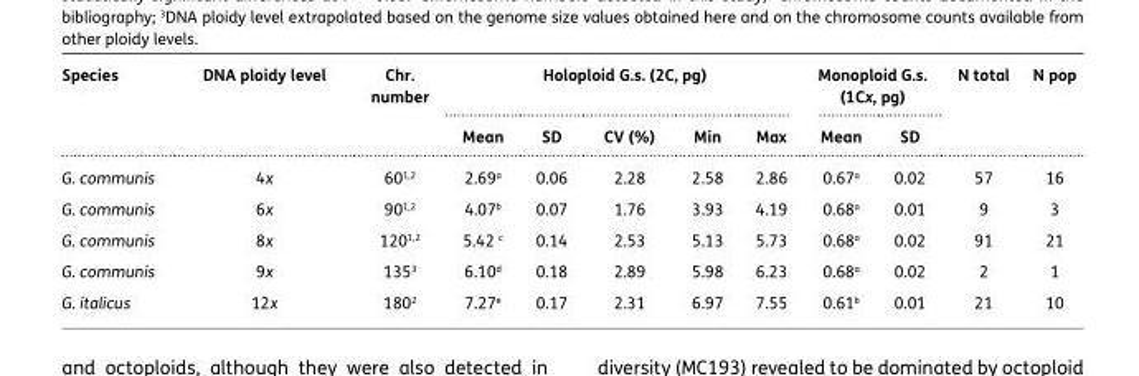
<table><thead><tr><td rowspan="2">Species</td><td rowspan="2">DNA ploidy level</td><td rowspan="2">Chr. number</td><td colspan="5">Holoploid G.s. (2C, pg)</td><td colspan="2">Monoploid G.s. (1Cx, pg)</td><td rowspan="2">N total</td><td rowspan="2">N pop</td></tr><tr><td>Mean</td><td>SD</td><td>CV (%)</td><td>Min</td><td>Max</td><td>Mean</td><td>SD</td></tr></thead><tbody><tr><td>G. communis</td><td>4x</td><td>60<sup>1,2</sup></td><td>2.69<sup>a</sup></td><td>0.06</td><td>2.28</td><td>2.58</td><td>2.86</td><td>0.67<sup>a</sup></td><td>0.02</td><td>57</td><td>16</td></tr><tr><td>G. communis</td><td>6x</td><td>90<sup>1,2</sup></td><td>4.07<sup>b</sup></td><td>0.07</td><td>1.76</td><td>3.93</td><td>4.19</td><td>0.68<sup>a</sup></td><td>0.01</td><td>9</td><td>3</td></tr><tr><td>G. communis</td><td>8x</td><td>120<sup>1,2</sup></td><td>5.42 <sup>c</sup></td><td>0.14</td><td>2.53</td><td>5.13</td><td>5.73</td><td>0.68<sup>a</sup></td><td>0.02</td><td>91</td><td>21</td></tr><tr><td>G. communis</td><td>9x</td><td>135<sup>3</sup></td><td>6.10<sup>d</sup></td><td>0.18</td><td>2.89</td><td>5.98</td><td>6.23</td><td>0.68<sup>a</sup></td><td>0.02</td><td>2</td><td>1</td></tr><tr><td>G. italicus</td><td>12x</td><td>180<sup>2</sup></td><td>7.27<sup>e</sup></td><td>0.17</td><td>2.31</td><td>6.97</td><td>7.55</td><td>0.61<sup>b</sup></td><td>0.01</td><td>21</td><td>10</td></tr></tbody></table>